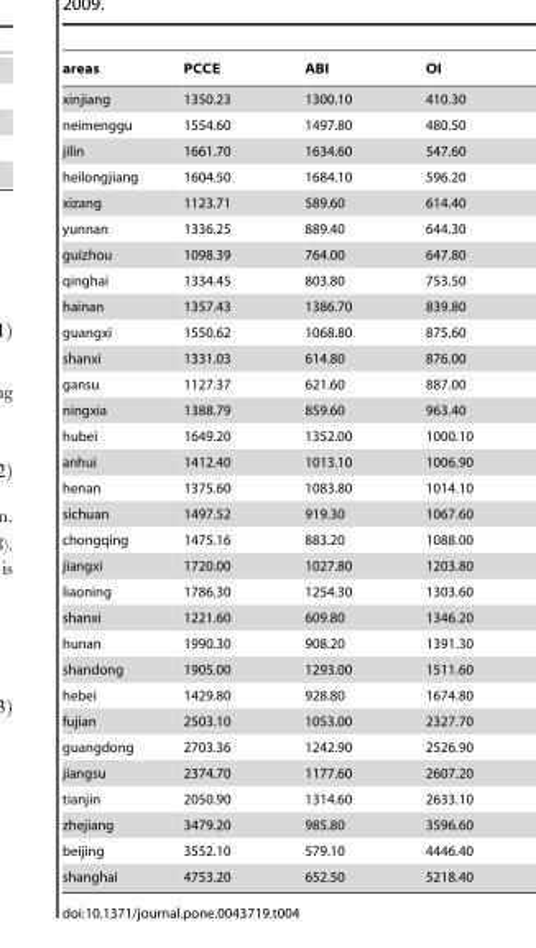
<table><thead><tr><td>areas</td><td>PCCE</td><td>ABI</td><td>OI</td></tr></thead><tbody><tr><td>xinjiang</td><td>1350.23</td><td>1300.10</td><td>410.30</td></tr><tr><td>neimenggu</td><td>1554.60</td><td>1497.80</td><td>480.50</td></tr><tr><td>jilin</td><td>1661.70</td><td>1634.60</td><td>547.60</td></tr><tr><td>heilongjiang</td><td>1604.50</td><td>1684.10</td><td>596.20</td></tr><tr><td>xizang</td><td>1123.71</td><td>589.60</td><td>614.40</td></tr><tr><td>yunnan</td><td>1336.25</td><td>889.40</td><td>644.30</td></tr><tr><td>guizhou</td><td>1098.39</td><td>764.00</td><td>647.80</td></tr><tr><td>qinghai</td><td>1334.45</td><td>803.80</td><td>753.50</td></tr><tr><td>hainan</td><td>1357.43</td><td>1386.70</td><td>839.80</td></tr><tr><td>guangxi</td><td>1550.62</td><td>1068.80</td><td>875.60</td></tr><tr><td>shanxi</td><td>1331.03</td><td>614.80</td><td>876.00</td></tr><tr><td>gansu</td><td>1127.37</td><td>621.60</td><td>887.00</td></tr><tr><td>ningxia</td><td>1388.79</td><td>859.60</td><td>963.40</td></tr><tr><td>hubei</td><td>1649.20</td><td>1352.00</td><td>1000.10</td></tr><tr><td>anhui</td><td>1412.40</td><td>1013.10</td><td>1006.90</td></tr><tr><td>henan</td><td>1375.60</td><td>1083.80</td><td>1014.10</td></tr><tr><td>sichuan</td><td>1497.52</td><td>919.30</td><td>1067.60</td></tr><tr><td>chongqing</td><td>1475.16</td><td>883.20</td><td>1088.00</td></tr><tr><td>jiangxi</td><td>1720.00</td><td>1027.80</td><td>1203.80</td></tr><tr><td>liaoning</td><td>1786.30</td><td>1254.30</td><td>1303.60</td></tr><tr><td>shanxi</td><td>1221.60</td><td>609.80</td><td>1346.20</td></tr><tr><td>hunan</td><td>1990.30</td><td>908.20</td><td>1391.30</td></tr><tr><td>shandong</td><td>1905.00</td><td>1293.00</td><td>1511.60</td></tr><tr><td>hebei</td><td>1429.80</td><td>928.80</td><td>1674.80</td></tr><tr><td>fujian</td><td>2503.10</td><td>1053.00</td><td>2327.70</td></tr><tr><td>guangdong</td><td>2703.36</td><td>1242.90</td><td>2526.90</td></tr><tr><td>jiangsu</td><td>2374.70</td><td>1177.60</td><td>2607.20</td></tr><tr><td>tianjin</td><td>2050.90</td><td>1314.60</td><td>2633.10</td></tr><tr><td>zhejiang</td><td>3479.20</td><td>985.80</td><td>3596.60</td></tr><tr><td>beijing</td><td>3552.10</td><td>579.10</td><td>4446.40</td></tr><tr><td>shanghai</td><td>4753.20</td><td>652.50</td><td>5218.40</td></tr></tbody></table>